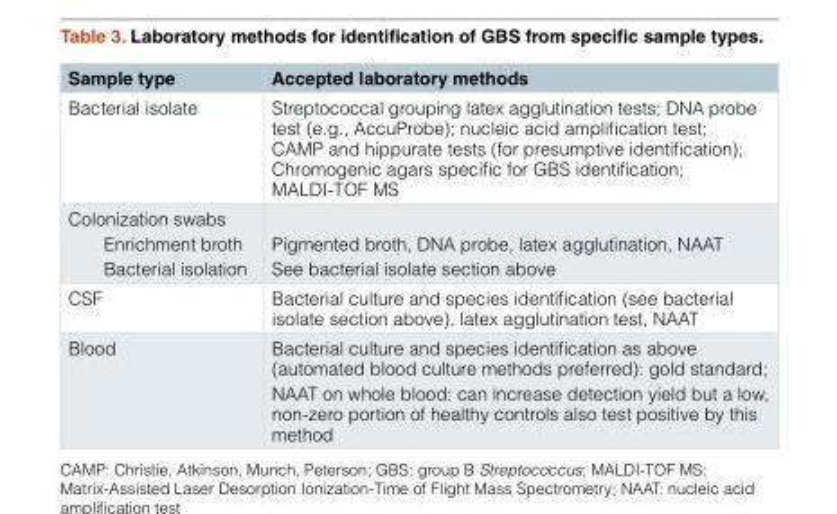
<table><thead><tr><td>Sample type</td><td>Accepted laboratory methods</td></tr></thead><tbody><tr><td>Bacterial isolate</td><td>Streptococcal grouping latex agglutination tests; DNA probe test (e.g., AccuProbe); nucleic acid amplification test; CAMP and hippurate tests (for presumptive identification); Chromogenic agars specific for GBS identification; MALDI-TOF MS</td></tr><tr><td>Colonization swabs Enrichment broth Bacterial isolation</td><td>Pigmented broth, DNA probe, latex agglutination, NAAT See bacterial isolate section above</td></tr><tr><td>CSF</td><td>Bacterial culture and species identification (see bacterial isolate section above), latex agglutination test, NAAT</td></tr><tr><td>Blood</td><td>Bacterial culture and species identification as above (automated blood culture methods preferred): gold standard; NAAT on whole blood: can increase detection yield but a low, non-zero portion of healthy controls also test positive by this method</td></tr></tbody></table>